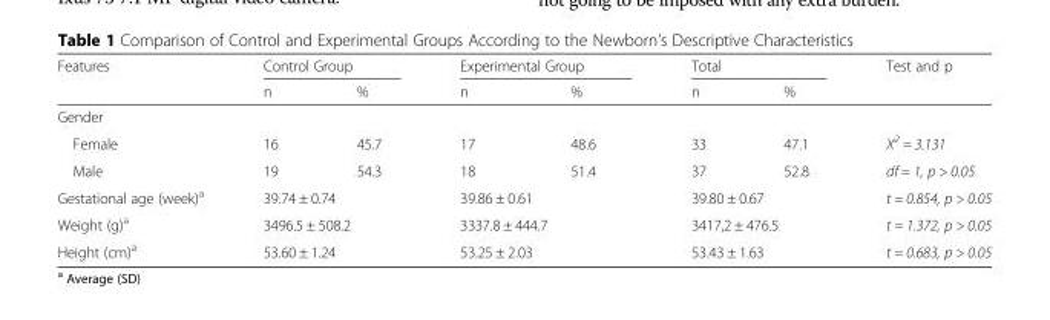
<table><thead><tr><td rowspan="2">Features</td><td colspan="2">Control Group</td><td colspan="2">Experimental Group</td><td colspan="2">Total</td><td rowspan="2">Test and p</td></tr><tr><td>n</td><td>%</td><td>n</td><td>%</td><td>n</td><td>%</td></tr></thead><tbody><tr><td colspan="8">Gender</td></tr><tr><td>Female</td><td>16</td><td>45.7</td><td>17</td><td>48.6</td><td>33</td><td>47.1</td><td>X<sup>2</sup> = 3.131</td></tr><tr><td>Male</td><td>19</td><td>54.3</td><td>18</td><td>51.4</td><td>37</td><td>52.8</td><td>df = 1, p &gt; 0.05</td></tr><tr><td>Gestational age (week)<sup>a</sup></td><td colspan="2">39.74 ± 0.74</td><td colspan="2">39.86 ± 0.61</td><td colspan="2">39.80 ± 0.67</td><td>t = 0.854, p &gt; 0.05</td></tr><tr><td>Weight (g)<sup>a</sup></td><td colspan="2">3496.5 ± 508.2</td><td colspan="2">3337.8 ± 444.7</td><td colspan="2">3417,2 ± 476.5</td><td>t = 1.372, p &gt; 0.05</td></tr><tr><td>Height (cm)<sup>a</sup></td><td colspan="2">53.60 ± 1.24</td><td colspan="2">53.25 ± 2.03</td><td colspan="2">53.43 ± 1.63</td><td>t = 0.683, p &gt; 0.05</td></tr></tbody></table>